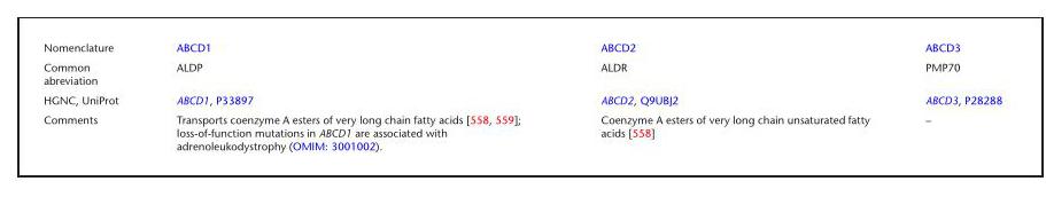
<table><tbody><tr><td>Nomenclature</td><td>ABCD1</td><td>ABCD2</td><td>ABCD3</td></tr><tr><td>Common abreviation</td><td>ALDP</td><td>ALDR</td><td>PMP70</td></tr><tr><td>HGNC, UniProt</td><td>ABCD1, P33897</td><td>ABCD2, Q9UBJ2</td><td>ABCD3, P28288</td></tr><tr><td>Comments</td><td>Transports coenzyme A esters of very long chain fatty acids [558, 559]; loss-of-function mutations in ABCD1 are associated with adrenoleukodystrophy (OMIM: 3001002).</td><td>Coenzyme A esters of very long chain unsaturated fatty acids [558]</td><td>–</td></tr></tbody></table>